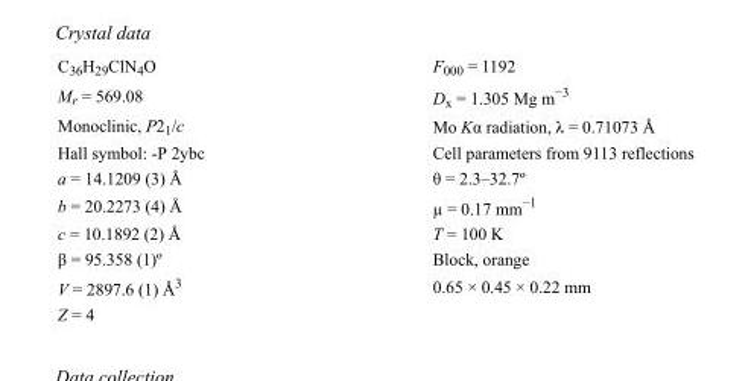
<table><tbody><tr><td>C<sub>36</sub>H<sub>29</sub>ClN<sub>4</sub>O</td><td>F000 = 1192</td></tr><tr><td>M<sub>r</sub> = 569.08</td><td>D<sub>x</sub> = 1.305 Mg m<sup>−3</sup></td></tr><tr><td>Monoclinic, P2<sub>1</sub>/c</td><td>Mo Kα radiation, λ = 0.71073 Å</td></tr><tr><td>Hall symbol: -P 2ybc</td><td>Cell parameters from 9113 reflections</td></tr><tr><td>a = 14.1209 (3) Å</td><td>θ = 2.3–32.7º</td></tr><tr><td>b = 20.2273 (4) Å</td><td>µ = 0.17 mm<sup>−1</sup></td></tr><tr><td>c = 10.1892 (2) Å</td><td>T = 100 K</td></tr><tr><td>β = 95.358 (1)º</td><td>Block, orange</td></tr><tr><td>V = 2897.6 (1) Å<sup>3</sup></td><td>0.65 × 0.45 × 0.22 mm</td></tr><tr><td>Z = 4</td><td></td></tr></tbody></table>